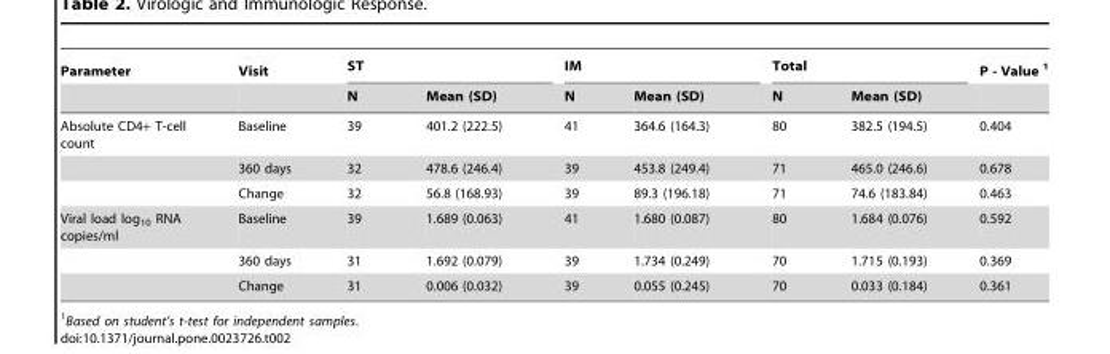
<table><thead><tr><td rowspan="2">Parameter</td><td rowspan="2">Visit</td><td colspan="2">ST</td><td colspan="2">IM</td><td colspan="2">Total</td><td rowspan="2">P - Value 1</td></tr><tr><td>N</td><td>Mean (SD)</td><td>N</td><td>Mean (SD)</td><td>N</td><td>Mean (SD)</td></tr></thead><tbody><tr><td rowspan="3">Absolute CD4+ T-cell count</td><td>Baseline</td><td>39</td><td>401.2 (222.5)</td><td>41</td><td>364.6 (164.3)</td><td>80</td><td>382.5 (194.5)</td><td>0.404</td></tr><tr><td>360 days</td><td>32</td><td>478.6 (246.4)</td><td>39</td><td>453.8 (249.4)</td><td>71</td><td>465.0 (246.6)</td><td>0.678</td></tr><tr><td>Change</td><td>32</td><td>56.8 (168.93)</td><td>39</td><td>89.3 (196.18)</td><td>71</td><td>74.6 (183.84)</td><td>0.463</td></tr><tr><td rowspan="3">Viral load log<sub>10</sub> RNA copies/ml</td><td>Baseline</td><td>39</td><td>1.689 (0.063)</td><td>41</td><td>1.680 (0.087)</td><td>80</td><td>1.684 (0.076)</td><td>0.592</td></tr><tr><td>360 days</td><td>31</td><td>1.692 (0.079)</td><td>39</td><td>1.734 (0.249)</td><td>70</td><td>1.715 (0.193)</td><td>0.369</td></tr><tr><td>Change</td><td>31</td><td>0.006 (0.032)</td><td>39</td><td>0.055 (0.245)</td><td>70</td><td>0.033 (0.184)</td><td>0.361</td></tr></tbody></table>